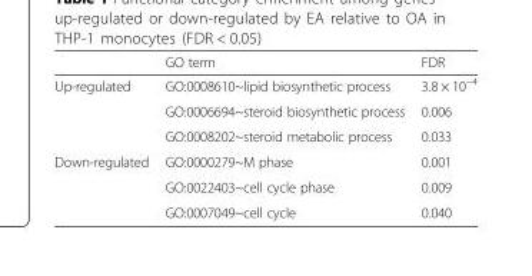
<table><thead><tr><td></td><td>GO term</td><td>FDR</td></tr></thead><tbody><tr><td rowspan="3">Up-regulated</td><td>GO:0008610~lipid biosynthetic process</td><td>3.8 × 10<sup>−4</sup></td></tr><tr><td>GO:0006694~steroid biosynthetic process</td><td>0.006</td></tr><tr><td>GO:0008202~steroid metabolic process</td><td>0.033</td></tr><tr><td rowspan="3">Down-regulated</td><td>GO:0000279~M phase</td><td>0.001</td></tr><tr><td>GO:0022403~cell cycle phase</td><td>0.009</td></tr><tr><td>GO:0007049~cell cycle</td><td>0.040</td></tr></tbody></table>